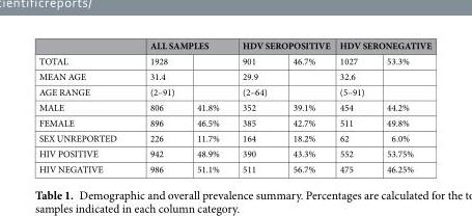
<table><thead><tr><td rowspan="2">TOTAL</td><td colspan="2">ALL SAMPLES</td><td colspan="2">HDV SEROPOSITIVE</td><td colspan="2">HDV SERONEGATIVE</td></tr><tr><td>1928</td><td></td><td>901</td><td>46.7%</td><td>1027</td><td>53.3%</td></tr></thead><tbody><tr><td>MEAN AGE</td><td>31.4</td><td></td><td>29.9</td><td></td><td>32.6</td><td></td></tr><tr><td>AGE RANGE</td><td>(2–91)</td><td></td><td>(2–64)</td><td></td><td>(5–91)</td><td></td></tr><tr><td>MALE</td><td>806</td><td>41.8%</td><td>352</td><td>39.1%</td><td>454</td><td>44.2%</td></tr><tr><td>FEMALE</td><td>896</td><td>46.5%</td><td>385</td><td>42.7%</td><td>511</td><td>49.8%</td></tr><tr><td>SEX UNREPORTED</td><td>226</td><td>11.7%</td><td>164</td><td>18.2%</td><td>62</td><td>6.0%</td></tr><tr><td>HIV POSITIVE</td><td>942</td><td>48.9%</td><td>390</td><td>43.3%</td><td>552</td><td>53.75%</td></tr><tr><td>HIV NEGATIVE</td><td>986</td><td>51.1%</td><td>511</td><td>56.7%</td><td>475</td><td>46.25%</td></tr></tbody></table>